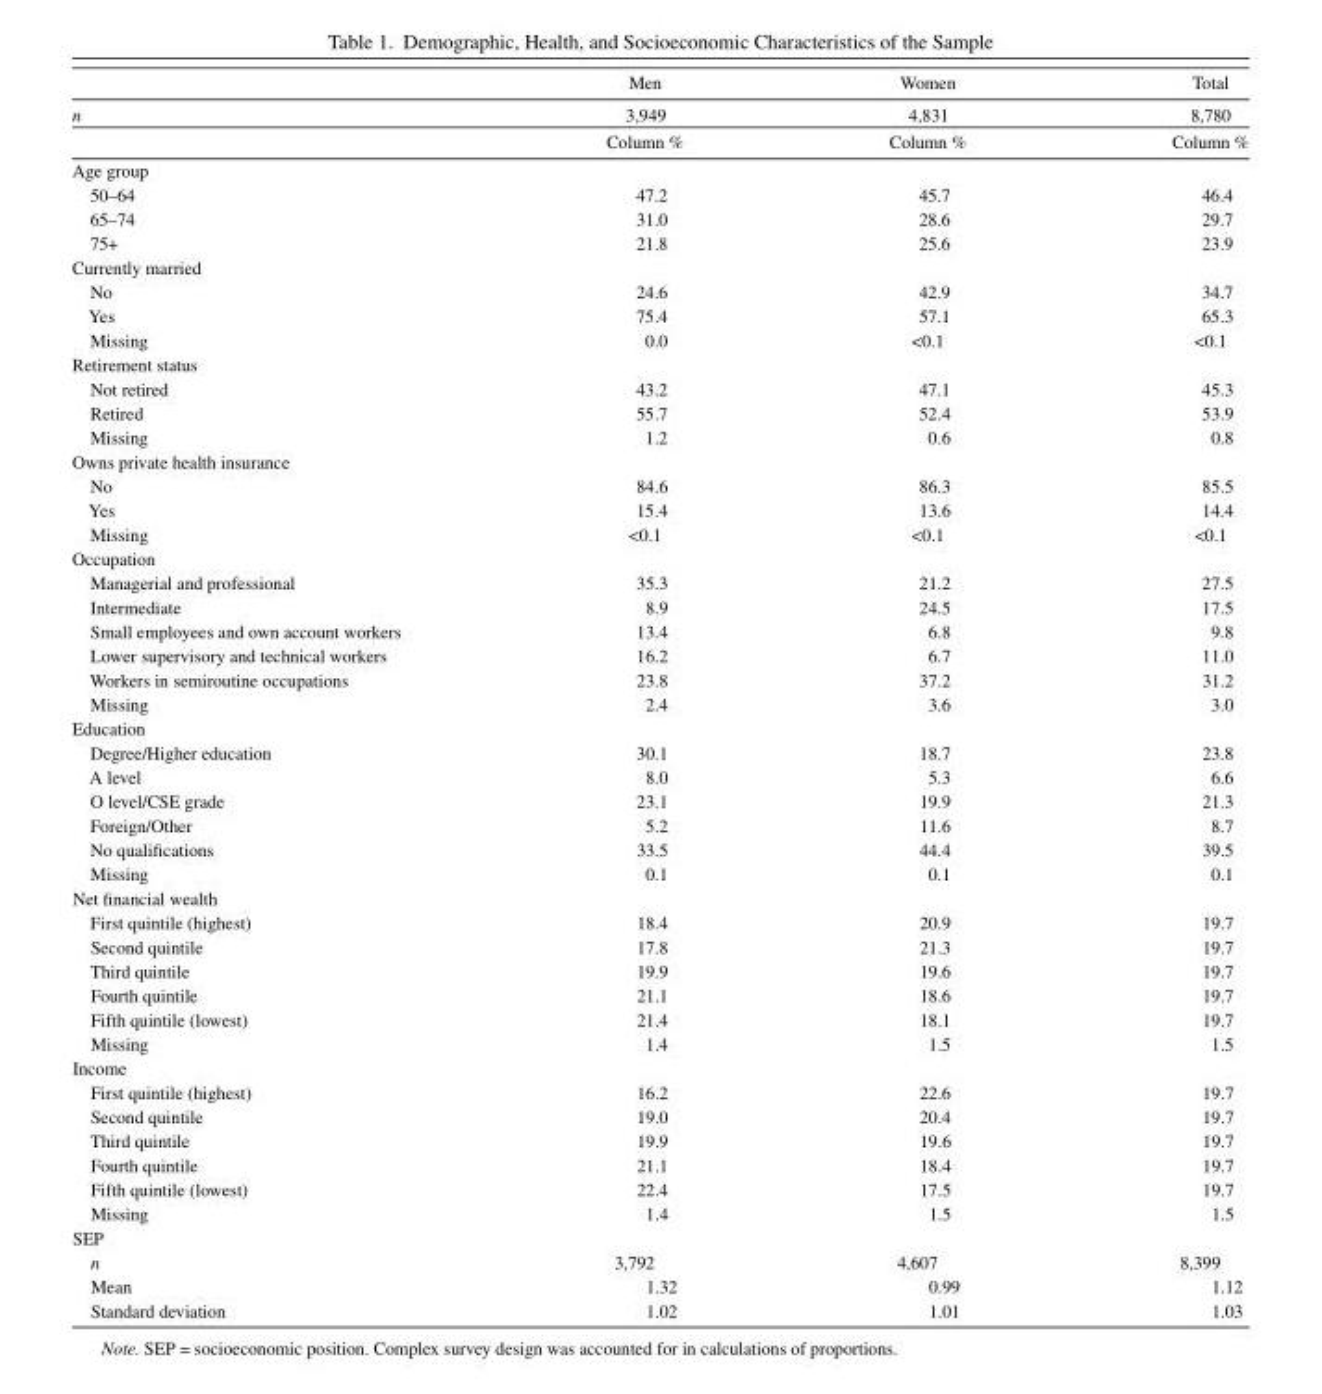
<table><thead><tr><td rowspan="3">n</td><td rowspan="3">Men 3,949 Column %</td><td rowspan="3">Women 4,831 Column %</td><td rowspan="3">Total 8,780 Column %</td></tr><tr></tr><tr></tr></thead><tbody><tr><td colspan="4">Age group</td></tr><tr><td>50–64</td><td>47.2</td><td>45.7</td><td>46.4</td></tr><tr><td>65–74</td><td>31.0</td><td>28.6</td><td>29.7</td></tr><tr><td>75+</td><td>21.8</td><td>25.6</td><td>23.9</td></tr><tr><td colspan="4">Currently married</td></tr><tr><td>no</td><td>24.6</td><td>42.9</td><td>34.7</td></tr><tr><td>Yes</td><td>75.4</td><td>57.1</td><td>65.3</td></tr><tr><td>Missing</td><td>0.0</td><td>&lt;0.1</td><td>&lt;0.1</td></tr><tr><td colspan="4">Retirement status</td></tr><tr><td>not retired</td><td>43.2</td><td>47.1</td><td>45.3</td></tr><tr><td>Retired</td><td>55.7</td><td>52.4</td><td>53.9</td></tr><tr><td>Missing</td><td>1.2</td><td>0.6</td><td>0.8</td></tr><tr><td colspan="4">Owns private health insurance</td></tr><tr><td>no</td><td>84.6</td><td>86.3</td><td>85.5</td></tr><tr><td>Yes</td><td>15.4</td><td>13.6</td><td>14.4</td></tr><tr><td>Missing</td><td>&lt;0.1</td><td>&lt;0.1</td><td>&lt;0.1</td></tr><tr><td colspan="4">Occupation</td></tr><tr><td>Managerial and professional</td><td>35.3</td><td>21.2</td><td>27.5</td></tr><tr><td>Intermediate</td><td>8.9</td><td>24.5</td><td>17.5</td></tr><tr><td>Small employees and own account workers</td><td>13.4</td><td>6.8</td><td>9.8</td></tr><tr><td>Lower supervisory and technical workers</td><td>16.2</td><td>6.7</td><td>11.0</td></tr><tr><td>Workers in semiroutine occupations</td><td>23.8</td><td>37.2</td><td>31.2</td></tr><tr><td>Missing</td><td>2.4</td><td>3.6</td><td>3.0</td></tr><tr><td colspan="4">Education</td></tr><tr><td>Degree/Higher education</td><td>30.1</td><td>18.7</td><td>23.8</td></tr><tr><td>A level</td><td>8.0</td><td>5.3</td><td>6.6</td></tr><tr><td>O level/CSE grade</td><td>23.1</td><td>19.9</td><td>21.3</td></tr><tr><td>Foreign/Other</td><td>5.2</td><td>11.6</td><td>8.7</td></tr><tr><td>no qualifications</td><td>33.5</td><td>44.4</td><td>39.5</td></tr><tr><td>Missing</td><td>0.1</td><td>0.1</td><td>0.1</td></tr><tr><td colspan="4">net financial wealth</td></tr><tr><td>First quintile (highest)</td><td>18.4</td><td>20.9</td><td>19.7</td></tr><tr><td>Second quintile</td><td>17.8</td><td>21.3</td><td>19.7</td></tr><tr><td>Third quintile</td><td>19.9</td><td>19.6</td><td>19.7</td></tr><tr><td>Fourth quintile</td><td>21.1</td><td>18.6</td><td>19.7</td></tr><tr><td>Fifth quintile (lowest)</td><td>21.4</td><td>18.1</td><td>19.7</td></tr><tr><td>Missing</td><td>1.4</td><td>1.5</td><td>1.5</td></tr><tr><td colspan="4">Income</td></tr><tr><td>First quintile (highest)</td><td>16.2</td><td>22.6</td><td>19.7</td></tr><tr><td>Second quintile</td><td>19.0</td><td>20.4</td><td>19.7</td></tr><tr><td>Third quintile</td><td>19.9</td><td>19.6</td><td>19.7</td></tr><tr><td>Fourth quintile</td><td>21.1</td><td>18.4</td><td>19.7</td></tr><tr><td>Fifth quintile (lowest)</td><td>22.4</td><td>17.5</td><td>19.7</td></tr><tr><td>Missing</td><td>1.4</td><td>1.5</td><td>1.5</td></tr><tr><td colspan="4">SEP</td></tr><tr><td>n</td><td>3,792</td><td>4,607</td><td>8,399</td></tr><tr><td>Mean</td><td>1.32</td><td>0.99</td><td>1.12</td></tr><tr><td>Standard deviation</td><td>1.02</td><td>1.01</td><td>1.03</td></tr></tbody></table>